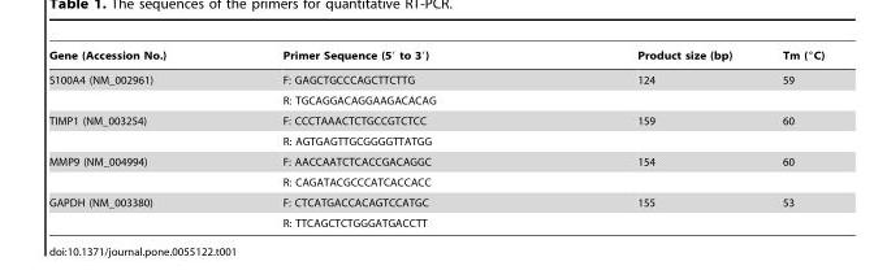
<table><thead><tr><td>Gene (Accession No.)</td><td>Primer Sequence (5′ to 3′)</td><td>Product size (bp)</td><td>Tm (°C)</td></tr></thead><tbody><tr><td rowspan="2">S100A4 (NM_002961)</td><td>F: GAGCTGCCCAGCTTCTTG</td><td>124</td><td>59</td></tr><tr><td>R: TGCAGGACAGGAAGACACAG</td><td></td><td></td></tr><tr><td rowspan="2">TIMP1 (NM_003254)</td><td>F: CCCTAAACTCTGCCGTCTCC</td><td>159</td><td>60</td></tr><tr><td>R: AGTGAGTTGCGGGGTTATGG</td><td></td><td></td></tr><tr><td rowspan="2">MMP9 (NM_004994)</td><td>F: AACCAATCTCACCGACAGGC</td><td>154</td><td>60</td></tr><tr><td>R: CAGATACGCCCATCACCACC</td><td></td><td></td></tr><tr><td rowspan="2">GAPDH (NM_003380)</td><td>F: CTCATGACCACAGTCCATGC</td><td>155</td><td>53</td></tr><tr><td>R: TTCAGCTCTGGGATGACCTT</td><td></td><td></td></tr></tbody></table>